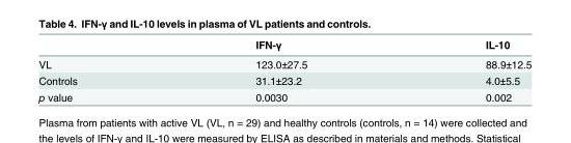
<table><thead><tr><td></td><td>IFN-γ</td><td>IL-10</td></tr></thead><tbody><tr><td>VL</td><td>123.0±27.5</td><td>88.9±12.5</td></tr><tr><td>Controls</td><td>31.1±23.2</td><td>4.0±5.5</td></tr><tr><td>p value</td><td>0.0030</td><td>0.002</td></tr></tbody></table>